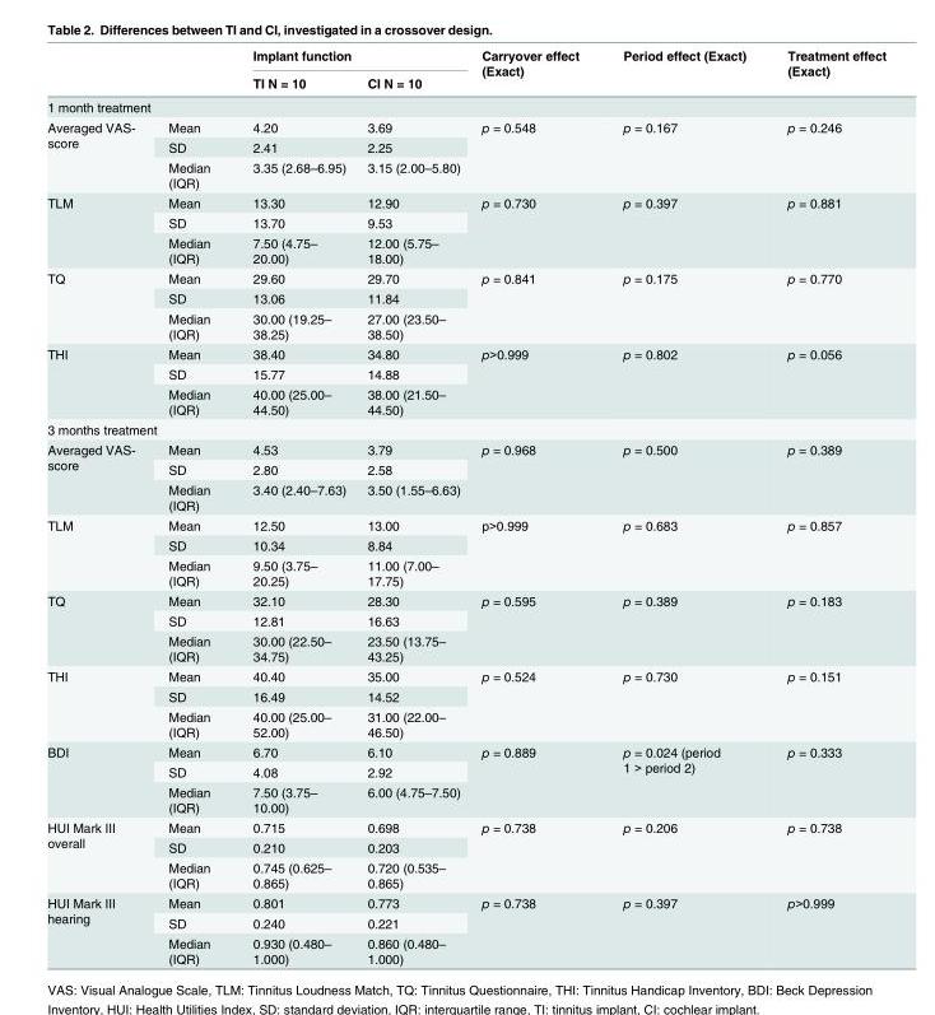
<table><thead><tr><td rowspan="2"></td><td rowspan="2"></td><td colspan="2">Implant function</td><td rowspan="2">Carryover effect (Exact)</td><td rowspan="2">Period effect (Exact)</td><td rowspan="2">Treatment effect (Exact)</td></tr><tr><td>TI N = 10</td><td>CI N = 10</td></tr></thead><tbody><tr><td colspan="7">1 month treatment</td></tr><tr><td rowspan="3">Averaged VAS- score</td><td>Mean</td><td>4.20</td><td>3.69</td><td rowspan="3">p = 0.548</td><td rowspan="3">p = 0.167</td><td rowspan="3">p = 0.246</td></tr><tr><td>SD</td><td>2.41</td><td>2.25</td></tr><tr><td>Median (IQR)</td><td>3.35 (2.68–6.95)</td><td>3.15 (2.00–5.80)</td></tr><tr><td rowspan="3">TLM</td><td>Mean</td><td>13.30</td><td>12.90</td><td rowspan="3">p = 0.730</td><td rowspan="3">p = 0.397</td><td rowspan="3">p = 0.881</td></tr><tr><td>SD</td><td>13.70</td><td>9.53</td></tr><tr><td>Median (IQR)</td><td>7.50 (4.75– 20.00)</td><td>12.00 (5.75– 18.00)</td></tr><tr><td rowspan="3">TQ</td><td>Mean</td><td>29.60</td><td>29.70</td><td rowspan="3">p = 0.841</td><td rowspan="3">p = 0.175</td><td rowspan="3">p = 0.770</td></tr><tr><td>SD</td><td>13.06</td><td>11.84</td></tr><tr><td>Median (IQR)</td><td>30.00 (19.25– 38.25)</td><td>27.00 (23.50– 38.50)</td></tr><tr><td rowspan="3">THI</td><td>Mean</td><td>38.40</td><td>34.80</td><td rowspan="3">p&gt;0.999</td><td rowspan="3">p = 0.802</td><td rowspan="3">p = 0.056</td></tr><tr><td>SD</td><td>15.77</td><td>14.88</td></tr><tr><td>Median (IQR)</td><td>40.00 (25.00– 44.50)</td><td>38.00 (21.50– 44.50)</td></tr><tr><td colspan="7">3 months treatment</td></tr><tr><td rowspan="3">Averaged VAS- score</td><td>Mean</td><td>4.53</td><td>3.79</td><td rowspan="3">p = 0.968</td><td rowspan="3">p = 0.500</td><td rowspan="3">p = 0.389</td></tr><tr><td>SD</td><td>2.80</td><td>2.58</td></tr><tr><td>Median (IQR)</td><td>3.40 (2.40–7.63)</td><td>3.50 (1.55–6.63)</td></tr><tr><td rowspan="3">TLM</td><td>Mean</td><td>12.50</td><td>13.00</td><td rowspan="3">p&gt;0.999</td><td rowspan="3">p = 0.683</td><td rowspan="3">p = 0.857</td></tr><tr><td>SD</td><td>10.34</td><td>8.84</td></tr><tr><td>Median (IQR)</td><td>9.50 (3.75– 20.25)</td><td>11.00 (7.00– 17.75)</td></tr><tr><td rowspan="3">TQ</td><td>Mean</td><td>32.10</td><td>28.30</td><td rowspan="3">p = 0.595</td><td rowspan="3">p = 0.389</td><td rowspan="3">p = 0.183</td></tr><tr><td>SD</td><td>12.81</td><td>16.63</td></tr><tr><td>Median (IQR)</td><td>30.00 (22.50– 34.75)</td><td>23.50 (13.75– 43.25)</td></tr><tr><td rowspan="3">THI</td><td>Mean</td><td>40.40</td><td>35.00</td><td rowspan="3">p = 0.524</td><td rowspan="3">p = 0.730</td><td rowspan="3">p = 0.151</td></tr><tr><td>SD</td><td>16.49</td><td>14.52</td></tr><tr><td>Median (IQR)</td><td>40.00 (25.00– 52.00)</td><td>31.00 (22.00– 46.50)</td></tr><tr><td rowspan="3">BDI</td><td>Mean</td><td>6.70</td><td>6.10</td><td rowspan="3">p = 0.889</td><td rowspan="3">p = 0.024 (period 1 &gt; period 2)</td><td rowspan="3">p = 0.333</td></tr><tr><td>SD</td><td>4.08</td><td>2.92</td></tr><tr><td>Median (IQR)</td><td>7.50 (3.75– 10.00)</td><td>6.00 (4.75–7.50)</td></tr><tr><td rowspan="3">HUI Mark III overall</td><td>Mean</td><td>0.715</td><td>0.698</td><td rowspan="3">p = 0.738</td><td rowspan="3">p = 0.206</td><td rowspan="3">p = 0.738</td></tr><tr><td>SD</td><td>0.210</td><td>0.203</td></tr><tr><td>Median (IQR)</td><td>0.745 (0.625– 0.865)</td><td>0.720 (0.535– 0.865)</td></tr><tr><td rowspan="3">HUI Mark III hearing</td><td>Mean</td><td>0.801</td><td>0.773</td><td rowspan="3">p = 0.738</td><td rowspan="3">p = 0.397</td><td rowspan="3">p&gt;0.999</td></tr><tr><td>SD</td><td>0.240</td><td>0.221</td></tr><tr><td>Median (IQR)</td><td>0.930 (0.480– 1.000)</td><td>0.860 (0.480– 1.000)</td></tr></tbody></table>